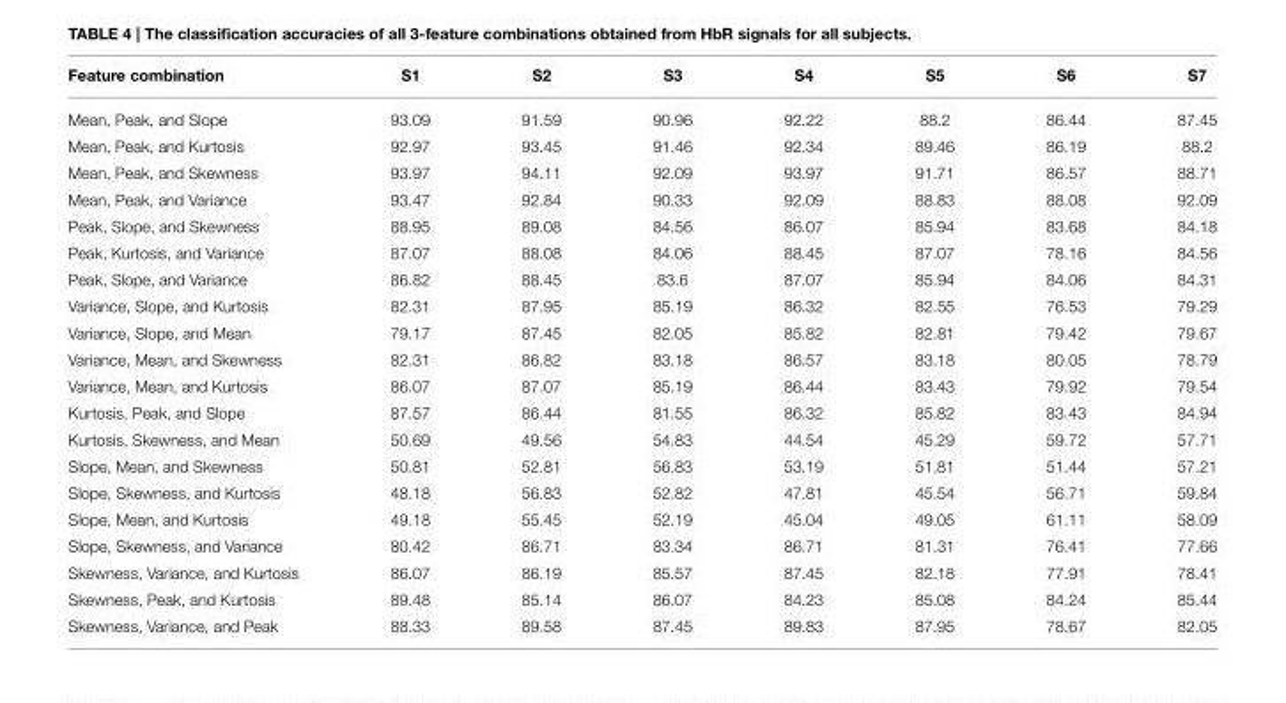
<table><thead><tr><td>Feature combination</td><td>S1</td><td>S2</td><td>S3</td><td>S4</td><td>S5</td><td>S6</td><td>S7</td></tr></thead><tbody><tr><td>Mean, Peak, and Slope</td><td>93.09</td><td>91.59</td><td>90.96</td><td>92.22</td><td>88.2</td><td>86.44</td><td>87.45</td></tr><tr><td>Mean, Peak, and Kurtosis</td><td>92.97</td><td>93.45</td><td>91.46</td><td>92.34</td><td>89.46</td><td>86.19</td><td>88.2</td></tr><tr><td>Mean, Peak, and Skewness</td><td>93.97</td><td>94.11</td><td>92.09</td><td>93.97</td><td>91.71</td><td>86.57</td><td>88.71</td></tr><tr><td>Mean, Peak, and Variance</td><td>93.47</td><td>92.84</td><td>90.33</td><td>92.09</td><td>88.83</td><td>88.08</td><td>92.09</td></tr><tr><td>Peak, Slope, and Skewness</td><td>88.95</td><td>89.08</td><td>84.56</td><td>86.07</td><td>85.94</td><td>83.68</td><td>84.18</td></tr><tr><td>Peak, Kurtosis, and Variance</td><td>87.07</td><td>88.08</td><td>84.06</td><td>88.45</td><td>87.07</td><td>78.16</td><td>84.56</td></tr><tr><td>Peak, Slope, and Variance</td><td>86.82</td><td>88.45</td><td>83.6</td><td>87.07</td><td>85.94</td><td>84.06</td><td>84.31</td></tr><tr><td>Variance, Slope, and Kurtosis</td><td>82.31</td><td>87.95</td><td>85.19</td><td>86.32</td><td>82.55</td><td>76.53</td><td>79.29</td></tr><tr><td>Variance, Slope, and Mean</td><td>79.17</td><td>87.45</td><td>82.05</td><td>85.82</td><td>82.81</td><td>79.42</td><td>79.67</td></tr><tr><td>Variance, Mean, and Skewness</td><td>82.31</td><td>86.82</td><td>83.18</td><td>86.57</td><td>83.18</td><td>80.05</td><td>78.79</td></tr><tr><td>Variance, Mean, and Kurtosis</td><td>86.07</td><td>87.07</td><td>85.19</td><td>86.44</td><td>83.43</td><td>79.92</td><td>79.54</td></tr><tr><td>Kurtosis, Peak, and Slope</td><td>87.57</td><td>86.44</td><td>81.55</td><td>86.32</td><td>85.82</td><td>83.43</td><td>84.94</td></tr><tr><td>Kurtosis, Skewness, and Mean</td><td>50.69</td><td>49.56</td><td>54.83</td><td>44.54</td><td>45.29</td><td>59.72</td><td>57.71</td></tr><tr><td>Slope, Mean, and Skewness</td><td>50.81</td><td>52.81</td><td>56.83</td><td>53.19</td><td>51.81</td><td>51.44</td><td>57.21</td></tr><tr><td>Slope, Skewness, and Kurtosis</td><td>48.18</td><td>56.83</td><td>52.82</td><td>47.81</td><td>45.54</td><td>56.71</td><td>59.84</td></tr><tr><td>Slope, Mean, and Kurtosis</td><td>49.18</td><td>55.45</td><td>52.19</td><td>45.04</td><td>49.05</td><td>61.11</td><td>58.09</td></tr><tr><td>Slope, Skewness, and Variance</td><td>80.42</td><td>86.71</td><td>83.34</td><td>86.71</td><td>81.31</td><td>76.41</td><td>77.66</td></tr><tr><td>Skewness, Variance, and Kurtosis</td><td>86.07</td><td>86.19</td><td>85.57</td><td>87.45</td><td>82.18</td><td>77.91</td><td>78.41</td></tr><tr><td>Skewness, Peak, and Kurtosis</td><td>89.48</td><td>85.14</td><td>86.07</td><td>84.23</td><td>85.08</td><td>84.24</td><td>85.44</td></tr><tr><td>Skewness, Variance, and Peak</td><td>88.33</td><td>89.58</td><td>87.45</td><td>89.83</td><td>87.95</td><td>78.67</td><td>82.05</td></tr></tbody></table>